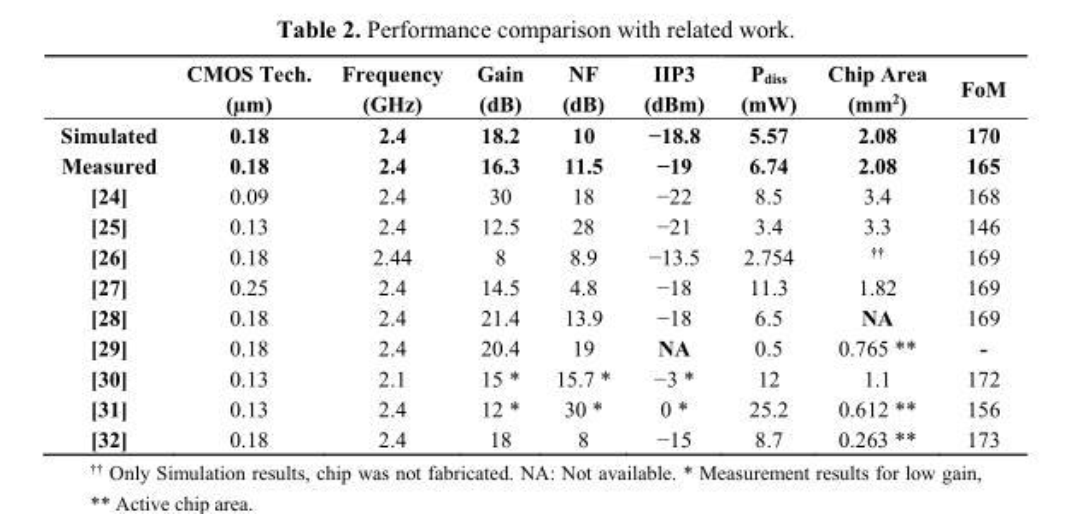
<table><thead><tr><td></td><td>CMOS Tech. (µm)</td><td>Frequency (GHz)</td><td>Gain (dB)</td><td>NF (dB)</td><td>IIP3 (dBm)</td><td>P<sub>diss</sub> (mW)</td><td>Chip Area (mm<sup>2</sup>)</td><td>FoM</td></tr></thead><tbody><tr><td>Simulated</td><td>0.18</td><td>2.4</td><td>18.2</td><td>10</td><td>−18.8</td><td>5.57</td><td>2.08</td><td>170</td></tr><tr><td>Measured</td><td>0.18</td><td>2.4</td><td>16.3</td><td>11.5</td><td>−19</td><td>6.74</td><td>2.08</td><td>165</td></tr><tr><td>[24]</td><td>0.09</td><td>2.4</td><td>30</td><td>18</td><td>−22</td><td>8.5</td><td>3.4</td><td>168</td></tr><tr><td>[25]</td><td>0.13</td><td>2.4</td><td>12.5</td><td>28</td><td>−21</td><td>3.4</td><td>3.3</td><td>146</td></tr><tr><td>[26]</td><td>0.18</td><td>2.44</td><td>8</td><td>8.9</td><td>−13.5</td><td>2.754</td><td><sup>††</sup></td><td>169</td></tr><tr><td>[27]</td><td>0.25</td><td>2.4</td><td>14.5</td><td>4.8</td><td>−18</td><td>11.3</td><td>1.82</td><td>169</td></tr><tr><td>[28]</td><td>0.18</td><td>2.4</td><td>21.4</td><td>13.9</td><td>−18</td><td>6.5</td><td>NA</td><td>169</td></tr><tr><td>[29]</td><td>0.18</td><td>2.4</td><td>20.4</td><td>19</td><td>NA</td><td>0.5</td><td>0.765 **</td><td>-</td></tr><tr><td>[30]</td><td>0.13</td><td>2.1</td><td>15 *</td><td>15.7 *</td><td>−3 *</td><td>12</td><td>1.1</td><td>172</td></tr><tr><td>[31]</td><td>0.13</td><td>2.4</td><td>12 *</td><td>30 *</td><td>0 *</td><td>25.2</td><td>0.612 **</td><td>156</td></tr><tr><td>[32]</td><td>0.18</td><td>2.4</td><td>18</td><td>8</td><td>−15</td><td>8.7</td><td>0.263 **</td><td>173</td></tr></tbody></table>